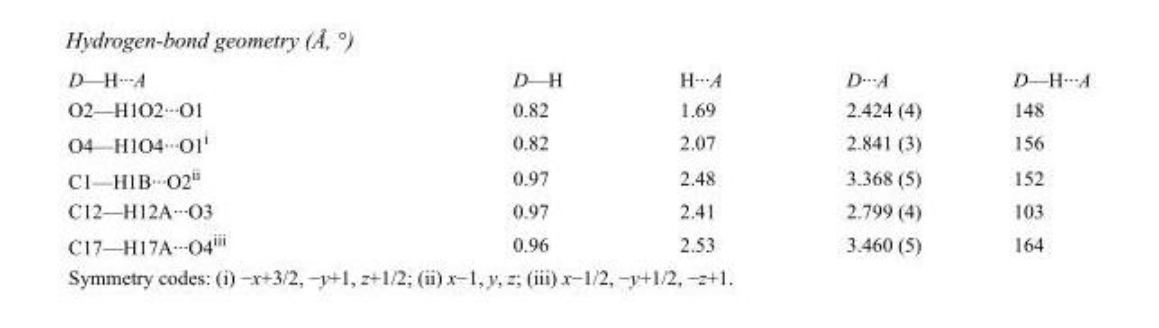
<table><tbody><tr><td>D—H···A</td><td>D—H</td><td>H···A</td><td>D···A</td><td>D—H···A</td></tr><tr><td>O2—H1O2···O1</td><td>0.82</td><td>1.69</td><td>2.424 (4)</td><td>148</td></tr><tr><td>O4—H1O4···O1<sup>i</sup></td><td>0.82</td><td>2.07</td><td>2.841 (3)</td><td>156</td></tr><tr><td>C1—H1B···O2<sup>ii</sup></td><td>0.97</td><td>2.48</td><td>3.368 (5)</td><td>152</td></tr><tr><td>C12—H12A···O3</td><td>0.97</td><td>2.41</td><td>2.799 (4)</td><td>103</td></tr><tr><td>C17—H17A···O4<sup>iii</sup></td><td>0.96</td><td>2.53</td><td>3.460 (5)</td><td>164</td></tr></tbody></table>